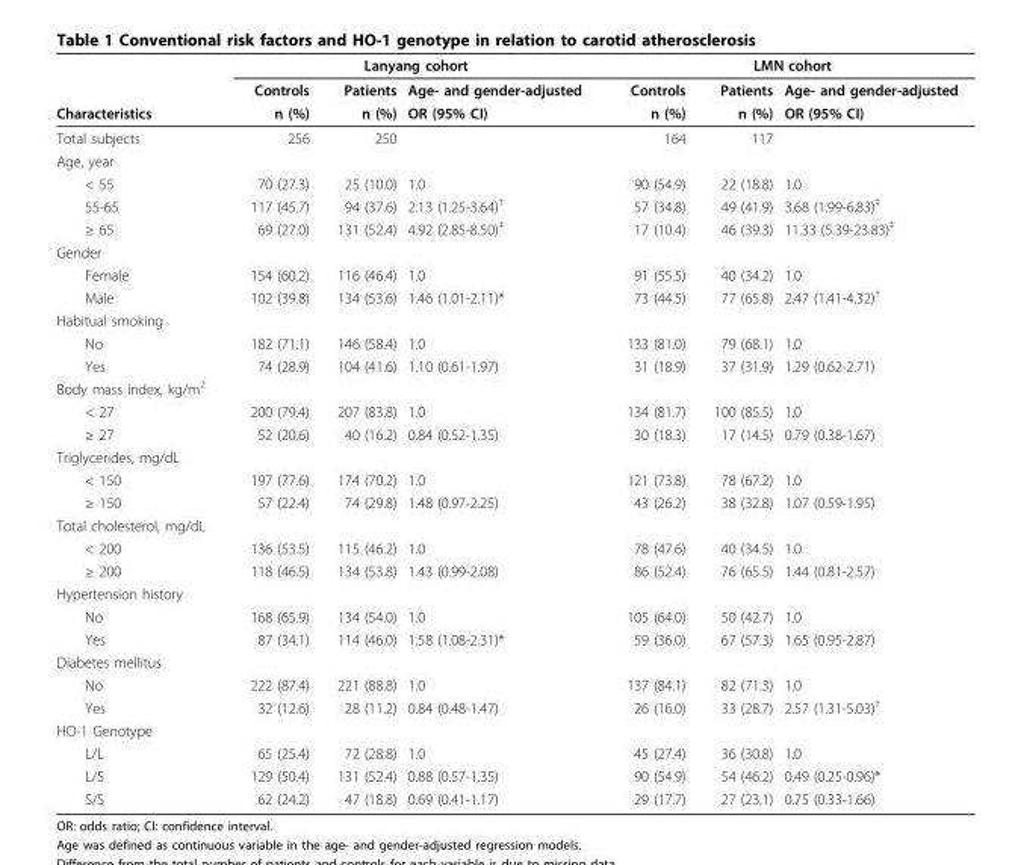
<table><thead><tr><td rowspan="3">Characteristics</td><td colspan="3">Lanyang cohort</td><td colspan="3">LMN cohort</td></tr><tr><td rowspan="2">Controls n (%)</td><td rowspan="2">Patients n (%)</td><td rowspan="2">Age- and gender-adjusted OR (95% CI)</td><td rowspan="2">Controls n (%)</td><td rowspan="2">Patients n (%)</td><td rowspan="2">Age- and gender-adjusted OR (95% CI)</td></tr><tr></tr></thead><tbody><tr><td>Total subjects</td><td>256</td><td>250</td><td></td><td>164</td><td>117</td><td></td></tr><tr><td colspan="7">Age, year</td></tr><tr><td>&lt; 55</td><td>70 (27.3)</td><td>25 (10.0)</td><td>1.0</td><td>90 (54.9)</td><td>22 (18.8)</td><td>1.0</td></tr><tr><td>55-65</td><td>117 (45.7)</td><td>94 (37.6)</td><td>2.13 (1.25-3.64)<sup>†</sup></td><td>57 (34.8)</td><td>49 (41.9)</td><td>3.68 (1.99-6.83)<sup>‡</sup></td></tr><tr><td>≥ 65</td><td>69 (27.0)</td><td>131 (52.4)</td><td>4.92 (2.85-8.50)<sup>‡</sup></td><td>17 (10.4)</td><td>46 (39.3)</td><td>11.33 (5.39-23.83)<sup>‡</sup></td></tr><tr><td colspan="7">Gender</td></tr><tr><td>Female</td><td>154 (60.2)</td><td>116 (46.4)</td><td>1.0</td><td>91 (55.5)</td><td>40 (34.2)</td><td>1.0</td></tr><tr><td>Male</td><td>102 (39.8)</td><td>134 (53.6)</td><td>1.46 (1.01-2.11)*</td><td>73 (44.5)</td><td>77 (65.8)</td><td>2.47 (1.41-4.32)<sup>†</sup></td></tr><tr><td colspan="7">Habitual smoking</td></tr><tr><td>No</td><td>182 (71.1)</td><td>146 (58.4)</td><td>1.0</td><td>133 (81.0)</td><td>79 (68.1)</td><td>1.0</td></tr><tr><td>Yes</td><td>74 (28.9)</td><td>104 (41.6)</td><td>1.10 (0.61-1.97)</td><td>31 (18.9)</td><td>37 (31.9)</td><td>1.29 (0.62-2.71)</td></tr><tr><td colspan="7">Body mass index, kg/m<sup>2</sup></td></tr><tr><td>&lt; 27</td><td>200 (79.4)</td><td>207 (83.8)</td><td>1.0</td><td>134 (81.7)</td><td>100 (85.5)</td><td>1.0</td></tr><tr><td>≥ 27</td><td>52 (20.6)</td><td>40 (16.2)</td><td>0.84 (0.52-1.35)</td><td>30 (18.3)</td><td>17 (14.5)</td><td>0.79 (0.38-1.67)</td></tr><tr><td colspan="7">Triglycerides, mg/dL</td></tr><tr><td>&lt; 150</td><td>197 (77.6)</td><td>174 (70.2)</td><td>1.0</td><td>121 (73.8)</td><td>78 (67.2)</td><td>1.0</td></tr><tr><td>≥ 150</td><td>57 (22.4)</td><td>74 (29.8)</td><td>1.48 (0.97-2.25)</td><td>43 (26.2)</td><td>38 (32.8)</td><td>1.07 (0.59-1.95)</td></tr><tr><td colspan="7">Total cholesterol, mg/dL</td></tr><tr><td>&lt; 200</td><td>136 (53.5)</td><td>115 (46.2)</td><td>1.0</td><td>78 (47.6)</td><td>40 (34.5)</td><td>1.0</td></tr><tr><td>≥ 200</td><td>118 (46.5)</td><td>134 (53.8)</td><td>1.43 (0.99-2.08)</td><td>86 (52.4)</td><td>76 (65.5)</td><td>1.44 (0.81-2.57)</td></tr><tr><td colspan="7">Hypertension history</td></tr><tr><td>No</td><td>168 (65.9)</td><td>134 (54.0)</td><td>1.0</td><td>105 (64.0)</td><td>50 (42.7)</td><td>1.0</td></tr><tr><td>Yes</td><td>87 (34.1)</td><td>114 (46.0)</td><td>1.58 (1.08-2.31)*</td><td>59 (36.0)</td><td>67 (57.3)</td><td>1.65 (0.95-2.87)</td></tr><tr><td colspan="7">Diabetes mellitus</td></tr><tr><td>No</td><td>222 (87.4)</td><td>221 (88.8)</td><td>1.0</td><td>137 (84.1)</td><td>82 (71.3)</td><td>1.0</td></tr><tr><td>Yes</td><td>32 (12.6)</td><td>28 (11.2)</td><td>0.84 (0.48-1.47)</td><td>26 (16.0)</td><td>33 (28.7)</td><td>2.57 (1.31-5.03)<sup>†</sup></td></tr><tr><td colspan="7">HO-1 Genotype</td></tr><tr><td>L/L</td><td>65 (25.4)</td><td>72 (28.8)</td><td>1.0</td><td>45 (27.4)</td><td>36 (30.8)</td><td>1.0</td></tr><tr><td>L/S</td><td>129 (50.4)</td><td>131 (52.4)</td><td>0.88 (0.57-1.35)</td><td>90 (54.9)</td><td>54 (46.2)</td><td>0.49 (0.25-0.96)*</td></tr><tr><td>S/S</td><td>62 (24.2)</td><td>47 (18.8)</td><td>0.69 (0.41-1.17)</td><td>29 (17.7)</td><td>27 (23.1)</td><td>0.75 (0.33-1.66)</td></tr></tbody></table>